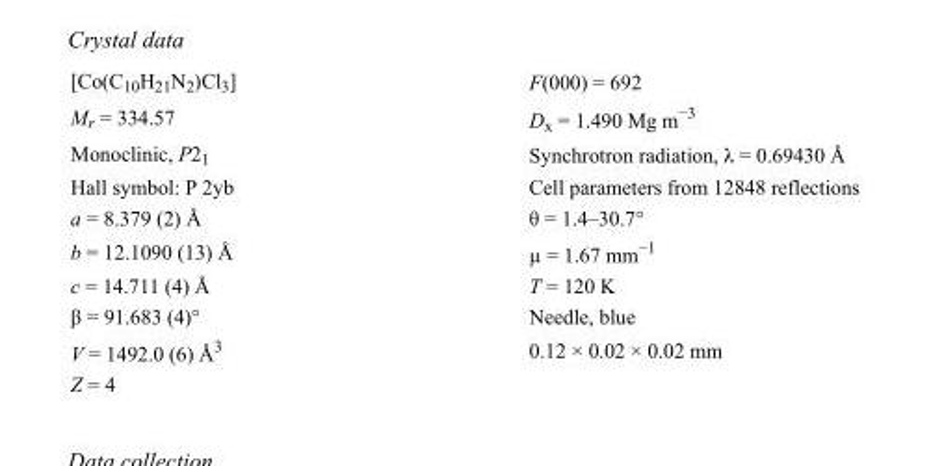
<table><tbody><tr><td>[Co(C<sub>10</sub>H<sub>21</sub>N<sub>2</sub>)Cl<sub>3</sub>]</td><td>F(000) = 692</td></tr><tr><td>M<sub>r</sub> = 334.57</td><td>D<sub>x</sub> = 1.490 Mg m<sup>−3</sup></td></tr><tr><td>Monoclinic, P2<sub>1</sub></td><td>Synchrotron radiation, λ = 0.69430 Å</td></tr><tr><td>Hall symbol: P 2yb</td><td>Cell parameters from 12848 reflections</td></tr><tr><td>a = 8.379 (2) Å</td><td>θ = 1.4–30.7°</td></tr><tr><td>b = 12.1090 (13) Å</td><td>µ = 1.67 mm<sup>−1</sup></td></tr><tr><td>c = 14.711 (4) Å</td><td>T = 120 K</td></tr><tr><td>β = 91.683 (4)°</td><td>Needle, blue</td></tr><tr><td>V = 1492.0 (6) Å<sup>3</sup></td><td>0.12 × 0.02 × 0.02 mm</td></tr><tr><td>Z = 4</td><td></td></tr></tbody></table>